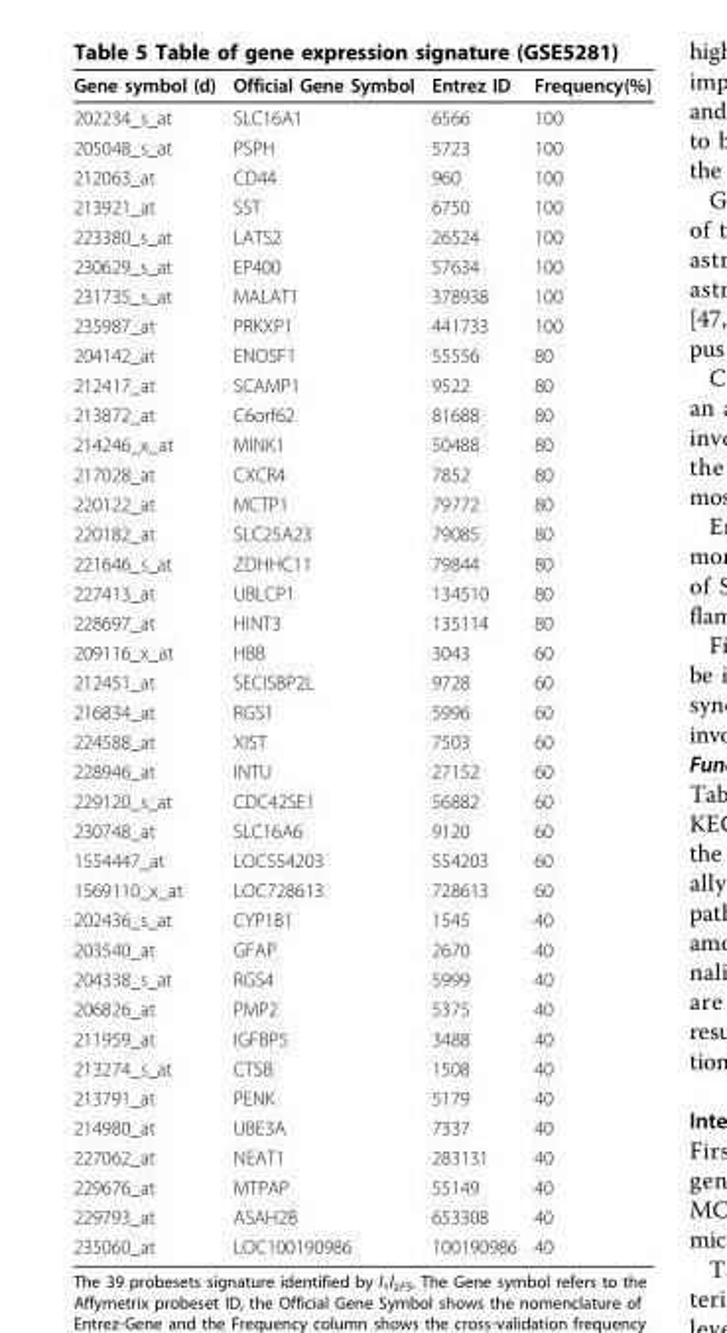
<table><thead><tr><td>Gene symbol (d)</td><td>Official Gene Symbol</td><td>Entrez ID</td><td>Frequency(%)</td></tr></thead><tbody><tr><td>202234_s_at</td><td>SLC16A1</td><td>6566</td><td>100</td></tr><tr><td>205048_s_at</td><td>PSPH</td><td>5723</td><td>100</td></tr><tr><td>212063_at</td><td>CD44</td><td>960</td><td>100</td></tr><tr><td>213921_at</td><td>SST</td><td>6750</td><td>100</td></tr><tr><td>223380_s_at</td><td>LATS2</td><td>26524</td><td>100</td></tr><tr><td>230629_s_at</td><td>EP400</td><td>57634</td><td>100</td></tr><tr><td>231735_s_at</td><td>MALAT1</td><td>378938</td><td>100</td></tr><tr><td>235987_at</td><td>PRKXP1</td><td>441733</td><td>100</td></tr><tr><td>204142_at</td><td>ENOSF1</td><td>55556</td><td>80</td></tr><tr><td>212417_at</td><td>SCAMP1</td><td>9522</td><td>80</td></tr><tr><td>213872_at</td><td>C6orf62</td><td>81688</td><td>80</td></tr><tr><td>214246_x_at</td><td>MINK1</td><td>50488</td><td>80</td></tr><tr><td>217028_at</td><td>CXCR4</td><td>7852</td><td>80</td></tr><tr><td>220122_at</td><td>MCTP1</td><td>79772</td><td>80</td></tr><tr><td>220182_at</td><td>SLC25A23</td><td>79085</td><td>80</td></tr><tr><td>221646_s_at</td><td>ZDHHC11</td><td>79844</td><td>80</td></tr><tr><td>227413_at</td><td>UBLCP1</td><td>134510</td><td>80</td></tr><tr><td>228697_at</td><td>HINT3</td><td>135114</td><td>80</td></tr><tr><td>209116_x_at</td><td>HBB</td><td>3043</td><td>60</td></tr><tr><td>212451_at</td><td>SECISBP2L</td><td>9728</td><td>60</td></tr><tr><td>216834_at</td><td>RGS1</td><td>5996</td><td>60</td></tr><tr><td>224588_at</td><td>XIST</td><td>7503</td><td>60</td></tr><tr><td>228946_at</td><td>INTU</td><td>27152</td><td>60</td></tr><tr><td>229120_s_at</td><td>CDC42SE1</td><td>56882</td><td>60</td></tr><tr><td>230748_at</td><td>SLC16A6</td><td>9120</td><td>60</td></tr><tr><td>1554447_at</td><td>LOC554203</td><td>554203</td><td>60</td></tr><tr><td>1569110_x_at</td><td>LOC728613</td><td>728613</td><td>60</td></tr><tr><td>202436_s_at</td><td>CYP1B1</td><td>1545</td><td>40</td></tr><tr><td>203540_at</td><td>GFAP</td><td>2670</td><td>40</td></tr><tr><td>204338_s_at</td><td>RGS4</td><td>5999</td><td>40</td></tr><tr><td>206826_at</td><td>PMP2</td><td>5375</td><td>40</td></tr><tr><td>211959_at</td><td>IGFBP5</td><td>3488</td><td>40</td></tr><tr><td>213274_s_at</td><td>CTSB</td><td>1508</td><td>40</td></tr><tr><td>213791_at</td><td>PENK</td><td>5179</td><td>40</td></tr><tr><td>214980_at</td><td>UBE3A</td><td>7337</td><td>40</td></tr><tr><td>227062_at</td><td>NEAT1</td><td>283131</td><td>40</td></tr><tr><td>229676_at</td><td>MTPAP</td><td>55149</td><td>40</td></tr><tr><td>229793_at</td><td>ASAH2B</td><td>653308</td><td>40</td></tr><tr><td>235060_at</td><td>LOC100190986</td><td>100190986</td><td>40</td></tr></tbody></table>